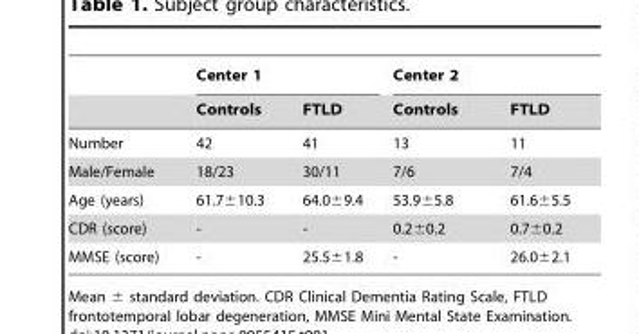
<table><thead><tr><td rowspan="2"></td><td colspan="2">Center 1</td><td colspan="2">Center 2</td></tr><tr><td>Controls</td><td>FTLD</td><td>Controls</td><td>FTLD</td></tr></thead><tbody><tr><td>Number</td><td>42</td><td>41</td><td>13</td><td>11</td></tr><tr><td>Male/Female</td><td>18/23</td><td>30/11</td><td>7/6</td><td>7/4</td></tr><tr><td>Age (years)</td><td>61.7±10.3</td><td>64.0±9.4</td><td>53.9±5.8</td><td>61.6±5.5</td></tr><tr><td>CDR (score)</td><td>-</td><td>-</td><td>0.2±0.2</td><td>0.7±0.2</td></tr><tr><td>MMSE (score)</td><td>-</td><td>25.5±1.8</td><td>-</td><td>26.0±2.1</td></tr></tbody></table>